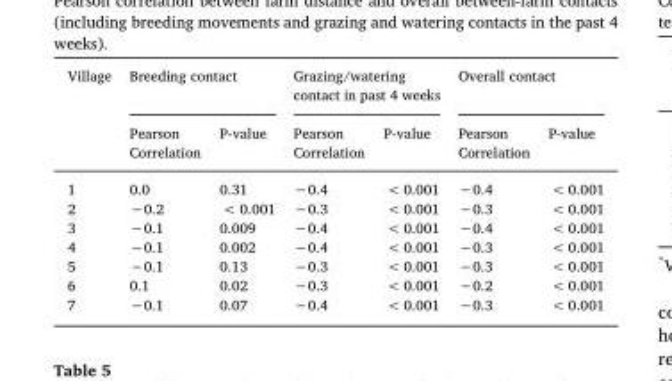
<table><thead><tr><td rowspan="2">Village</td><td colspan="2">Breeding contact</td><td colspan="2">Grazing/watering contact in past 4 weeks</td><td colspan="2">Overall contact</td></tr><tr><td>Pearson Correlation</td><td>P-value</td><td>Pearson Correlation</td><td>P-value</td><td>Pearson Correlation</td><td>P-value</td></tr></thead><tbody><tr><td>1</td><td>0.0</td><td>0.31</td><td>−0.4</td><td>&lt; 0.001</td><td>−0.4</td><td>&lt; 0.001</td></tr><tr><td>2</td><td>−0.2</td><td>&lt; 0.001</td><td>−0.3</td><td>&lt; 0.001</td><td>−0.3</td><td>&lt; 0.001</td></tr><tr><td>3</td><td>−0.1</td><td>0.009</td><td>−0.4</td><td>&lt; 0.001</td><td>−0.4</td><td>&lt; 0.001</td></tr><tr><td>4</td><td>−0.1</td><td>0.002</td><td>−0.4</td><td>&lt; 0.001</td><td>−0.3</td><td>&lt; 0.001</td></tr><tr><td>5</td><td>−0.1</td><td>0.13</td><td>−0.3</td><td>&lt; 0.001</td><td>−0.3</td><td>&lt; 0.001</td></tr><tr><td>6</td><td>0.1</td><td>0.02</td><td>−0.3</td><td>&lt; 0.001</td><td>−0.2</td><td>&lt; 0.001</td></tr><tr><td>7</td><td>−0.1</td><td>0.07</td><td>−0.4</td><td>&lt; 0.001</td><td>−0.3</td><td>&lt; 0.001</td></tr></tbody></table>